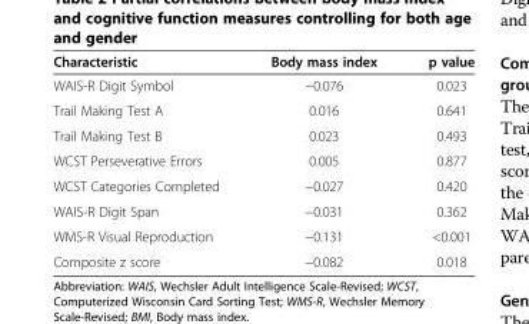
<table><thead><tr><td>Characteristic</td><td>Body mass index</td><td>p value</td></tr></thead><tbody><tr><td>WAIS-R Digit Symbol</td><td>−0.076</td><td>0.023</td></tr><tr><td>Trail Making Test A</td><td>0.016</td><td>0.641</td></tr><tr><td>Trail Making Test B</td><td>0.023</td><td>0.493</td></tr><tr><td>WCST Perseverative Errors</td><td>0.005</td><td>0.877</td></tr><tr><td>WCST Categories Completed</td><td>−0.027</td><td>0.420</td></tr><tr><td>WAIS-R Digit Span</td><td>−0.031</td><td>0.362</td></tr><tr><td>WMS-R Visual Reproduction</td><td>−0.131</td><td>&lt;0.001</td></tr><tr><td>Composite z score</td><td>−0.082</td><td>0.018</td></tr></tbody></table>